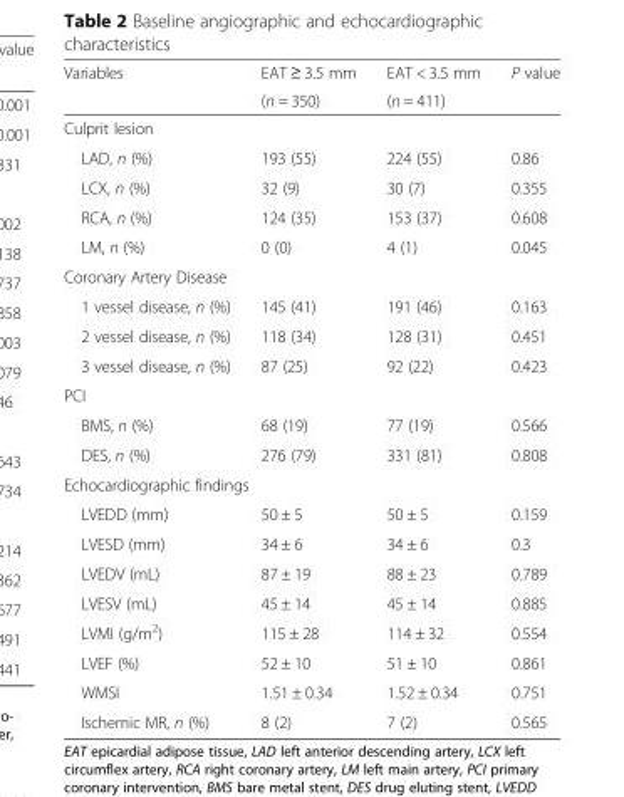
<table><thead><tr><td rowspan="2">Variables</td><td rowspan="2">EAT ≥ 3.5 mm (n = 350)</td><td rowspan="2">EAT &lt; 3.5 mm (n = 411)</td><td rowspan="2">P value</td></tr><tr></tr></thead><tbody><tr><td colspan="4">Culprit lesion</td></tr><tr><td>LAD, n (%)</td><td>193 (55)</td><td>224 (55)</td><td>0.86</td></tr><tr><td>LCX, n (%)</td><td>32 (9)</td><td>30 (7)</td><td>0.355</td></tr><tr><td>RCA, n (%)</td><td>124 (35)</td><td>153 (37)</td><td>0.608</td></tr><tr><td>LM, n (%)</td><td>0 (0)</td><td>4 (1)</td><td>0.045</td></tr><tr><td colspan="4">Coronary Artery Disease</td></tr><tr><td>1 vessel disease, n (%)</td><td>145 (41)</td><td>191 (46)</td><td>0.163</td></tr><tr><td>2 vessel disease, n (%)</td><td>118 (34)</td><td>128 (31)</td><td>0.451</td></tr><tr><td>3 vessel disease, n (%)</td><td>87 (25)</td><td>92 (22)</td><td>0.423</td></tr><tr><td colspan="4">PCI</td></tr><tr><td>BMS, n (%)</td><td>68 (19)</td><td>77 (19)</td><td>0.566</td></tr><tr><td>DES, n (%)</td><td>276 (79)</td><td>331 (81)</td><td>0.808</td></tr><tr><td colspan="4">Echocardiographic findings</td></tr><tr><td>LVEDD (mm)</td><td>50 ± 5</td><td>50 ± 5</td><td>0.159</td></tr><tr><td>LVESD (mm)</td><td>34 ± 6</td><td>34 ± 6</td><td>0.3</td></tr><tr><td>LVEDV (mL)</td><td>87 ± 19</td><td>88 ± 23</td><td>0.789</td></tr><tr><td>LVESV (mL)</td><td>45 ± 14</td><td>45 ± 14</td><td>0.885</td></tr><tr><td>LVMI (g/m<sup>2</sup>)</td><td>115 ± 28</td><td>114 ± 32</td><td>0.554</td></tr><tr><td>LVEF (%)</td><td>52 ± 10</td><td>51 ± 10</td><td>0.861</td></tr><tr><td>WMSI</td><td>1.51 ± 0.34</td><td>1.52 ± 0.34</td><td>0.751</td></tr><tr><td>Ischemic MR, n (%)</td><td>8 (2)</td><td>7 (2)</td><td>0.565</td></tr></tbody></table>